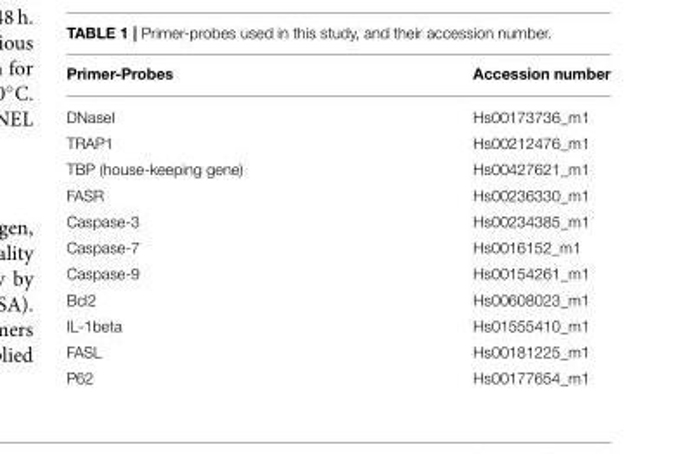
<table><thead><tr><td>Primer-Probes</td><td>Accession number</td></tr></thead><tbody><tr><td>DNaseI</td><td>Hs00173736_m1</td></tr><tr><td>TRAP1</td><td>Hs00212476_m1</td></tr><tr><td>TBP (house-keeping gene)</td><td>Hs00427621_m1</td></tr><tr><td>FASR</td><td>Hs00236330_m1</td></tr><tr><td>Caspase-3</td><td>Hs00234385_m1</td></tr><tr><td>Caspase-7</td><td>Hs0016152_m1</td></tr><tr><td>Caspase-9</td><td>Hs00154261_m1</td></tr><tr><td>Bcl2</td><td>Hs00608023_m1</td></tr><tr><td>IL-1beta</td><td>Hs01555410_m1</td></tr><tr><td>FASL</td><td>Hs00181225_m1</td></tr><tr><td>P62</td><td>Hs00177654_m1</td></tr></tbody></table>